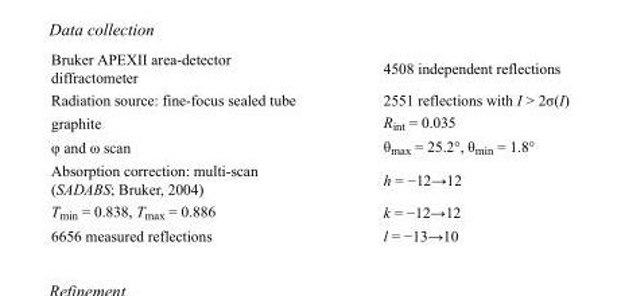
<table><tbody><tr><td>Bruker APEXII area-detector diffractometer</td><td>4508 independent reflections</td></tr><tr><td>Radiation source: fine-focus sealed tube</td><td>2551 reflections with I &gt; 2σ(I)</td></tr><tr><td>graphite</td><td>R<sub>int</sub> = 0.035</td></tr><tr><td>φ and ω scan</td><td>θ<sub>max</sub> = 25.2°, θ<sub>min</sub> = 1.8°</td></tr><tr><td>Absorption correction: multi-scan (SADABS; Bruker, 2004)</td><td>h = −12→12</td></tr><tr><td>T<sub>min</sub> = 0.838, T<sub>max</sub> = 0.886</td><td>k = −12→12</td></tr><tr><td>6656 measured reflections</td><td>l = −13→10</td></tr></tbody></table>